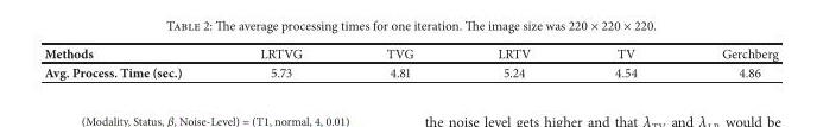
<table><thead><tr><td>Methods</td><td>LRTVG</td><td>TVG</td><td>LRTV</td><td>TV</td><td>Gerchberg</td></tr></thead><tbody><tr><td>Avg. Process. Time (sec.)</td><td>5.73</td><td>4.81</td><td>5.24</td><td>4.54</td><td>4.86</td></tr></tbody></table>